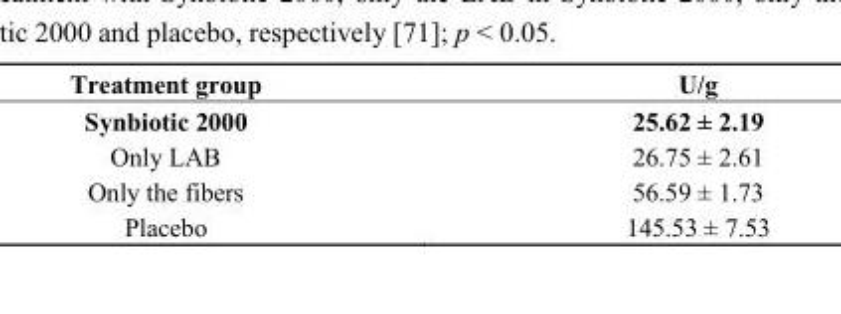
<table><thead><tr><td>Treatment group</td><td>U/g</td></tr></thead><tbody><tr><td>Synbiotic 2000</td><td>25.62 ± 2.19</td></tr><tr><td>Only LAB</td><td>26.75 ± 2.61</td></tr><tr><td>Only the fibers</td><td>56.59 ± 1.73</td></tr><tr><td>Placebo</td><td>145.53 ± 7.53</td></tr></tbody></table>